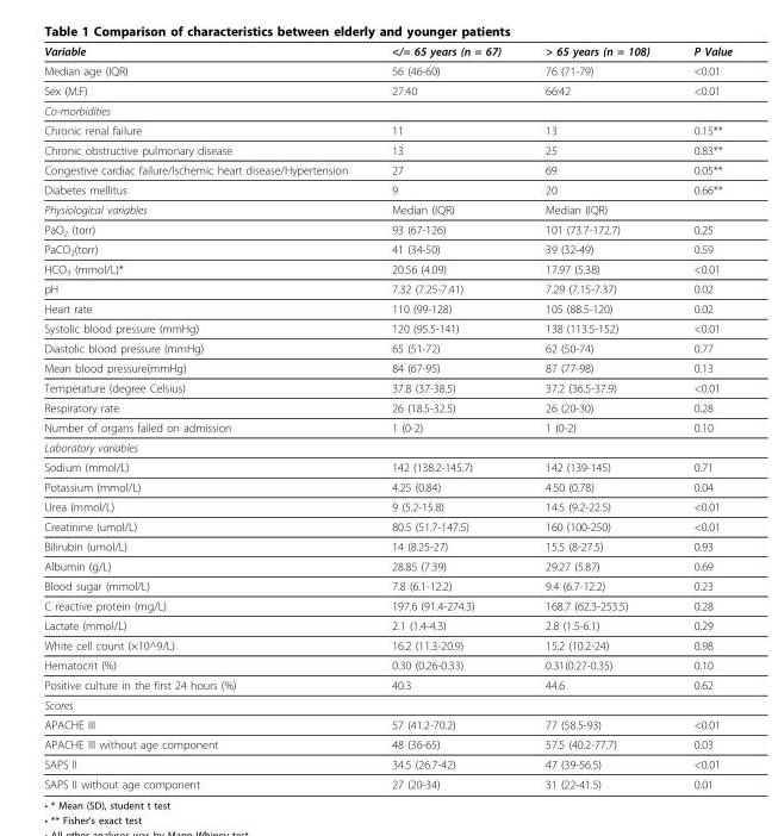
<table><thead><tr><td>Variable</td><td>&lt;/= 65 years (n = 67)</td><td>&gt; 65 years (n = 108)</td><td>P Value</td></tr></thead><tbody><tr><td>Median age (IQR)</td><td>56 (46-60)</td><td>76 (71-79)</td><td>&lt;0.01</td></tr><tr><td>Sex (M:F)</td><td>27:40</td><td>66:42</td><td>&lt;0.01</td></tr><tr><td colspan="4">Co-morbidities</td></tr><tr><td>Chronic renal failure</td><td>11</td><td>13</td><td>0.15**</td></tr><tr><td>Chronic obstructive pulmonary disease</td><td>13</td><td>25</td><td>0.83**</td></tr><tr><td>Congestive cardiac failure/Ischemic heart disease/Hypertension</td><td>27</td><td>69</td><td>0.05**</td></tr><tr><td>Diabetes mellitus</td><td>9</td><td>20</td><td>0.66**</td></tr><tr><td>Physiological variables</td><td>Median (IQR)</td><td>Median (IQR)</td><td></td></tr><tr><td>PaO<sub>2</sub> (torr)</td><td>93 (67-126)</td><td>101 (73.7-172.7)</td><td>0.25</td></tr><tr><td>PaCO<sub>2</sub>(torr)</td><td>41 (34-50)</td><td>39 (32-49)</td><td>0.59</td></tr><tr><td>HCO<sub>3</sub> (mmol/L)*</td><td>20.56 (4.09)</td><td>17.97 (5.38)</td><td>&lt;0.01</td></tr><tr><td>pH</td><td>7.32 (7.25-7.41)</td><td>7.29 (7.15-7.37)</td><td>0.02</td></tr><tr><td>Heart rate</td><td>110 (99-128)</td><td>105 (88.5-120)</td><td>0.02</td></tr><tr><td>Systolic blood pressure (mmHg)</td><td>120 (95.5-141)</td><td>138 (113.5-152)</td><td>&lt;0.01</td></tr><tr><td>Diastolic blood pressure (mmHg)</td><td>65 (51-72)</td><td>62 (50-74)</td><td>0.77</td></tr><tr><td>Mean blood pressure(mmHg)</td><td>84 (67-95)</td><td>87 (77-98)</td><td>0.13</td></tr><tr><td>Temperature (degree Celsius)</td><td>37.8 (37-38.5)</td><td>37.2 (36.5-37.9)</td><td>&lt;0.01</td></tr><tr><td>Respiratory rate</td><td>26 (18.5-32.5)</td><td>26 (20-30)</td><td>0.28</td></tr><tr><td>Number of organs failed on admission</td><td>1 (0-2)</td><td>1 (0-2)</td><td>0.10</td></tr><tr><td colspan="4">Laboratory variables</td></tr><tr><td>Sodium (mmol/L)</td><td>142 (138.2-145.7)</td><td>142 (139-145)</td><td>0.71</td></tr><tr><td>Potassium (mmol/L)</td><td>4.25 (0.84)</td><td>4.50 (0.78)</td><td>0.04</td></tr><tr><td>Urea (mmol/L)</td><td>9 (5.2-15.8)</td><td>14.5 (9.2-22.5)</td><td>&lt;0.01</td></tr><tr><td>Creatinine (umol/L)</td><td>80.5 (51.7-147.5)</td><td>160 (100-250)</td><td>&lt;0.01</td></tr><tr><td>Bilirubin (umol/L)</td><td>14 (8.25-27)</td><td>15.5 (8-27.5)</td><td>0.93</td></tr><tr><td>Albumin (g/L)</td><td>28.85 (7.39)</td><td>29.27 (5.87)</td><td>0.69</td></tr><tr><td>Blood sugar (mmol/L)</td><td>7.8 (6.1-12.2)</td><td>9.4 (6.7-12.2)</td><td>0.23</td></tr><tr><td>C reactive protein (mg/L)</td><td>197.6 (91.4-274.3)</td><td>168.7 (62.3-253.5)</td><td>0.28</td></tr><tr><td>Lactate (mmol/L)</td><td>2.1 (1.4-4.3)</td><td>2.8 (1.5-6.1)</td><td>0.29</td></tr><tr><td>White cell count (×10^9/L)</td><td>16.2 (11.3-20.9)</td><td>15.2 (10.2-24)</td><td>0.98</td></tr><tr><td>Hematocrit (%)</td><td>0.30 (0.26-0.33)</td><td>0.31(0.27-0.35)</td><td>0.10</td></tr><tr><td>Positive culture in the first 24 hours (%)</td><td>40.3</td><td>44.6</td><td>0.62</td></tr><tr><td colspan="4">Scores</td></tr><tr><td>APACHE III</td><td>57 (41.2-70.2)</td><td>77 (58.5-93)</td><td>&lt;0.01</td></tr><tr><td>APACHE III without age component</td><td>48 (36-65)</td><td>57.5 (40.2-77.7)</td><td>0.03</td></tr><tr><td>SAPS II</td><td>34.5 (26.7-42)</td><td>47 (39-56.5)</td><td>&lt;0.01</td></tr><tr><td>SAPS II without age component</td><td>27 (20-34)</td><td>31 (22-41.5)</td><td>0.01</td></tr></tbody></table>